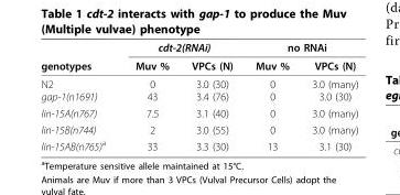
<table><thead><tr><td rowspan="2">genotypes</td><td colspan="2">cdt-2(RNAi)</td><td colspan="2">no RNAi</td></tr><tr><td>Muv %</td><td>VPCs (N)</td><td>Muv %</td><td>VPCs (N)</td></tr></thead><tbody><tr><td>N2 gap-1(n1691)</td><td>0 43</td><td>3.0 (30) 3.4 (76)</td><td>0 0</td><td>3.0 (many) 3.0 (30)</td></tr><tr><td>lin-15A(n767)</td><td>7.5</td><td>3.1 (40)</td><td>0</td><td>3.0 (many)</td></tr><tr><td>lin-15B(n744)</td><td>2</td><td>3.0 (55)</td><td>0</td><td>3.0 (many)</td></tr><tr><td>lin-15AB(n765)<sup>a</sup></td><td>33</td><td>3.3 (30)</td><td>13</td><td>3.1 (30)</td></tr></tbody></table>